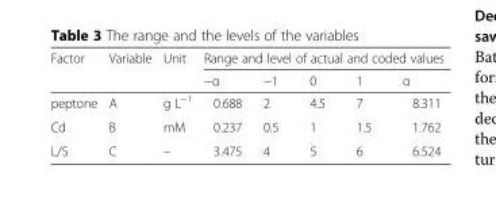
<table><thead><tr><td rowspan="2">Factor</td><td rowspan="2">Variable</td><td rowspan="2">Unit</td><td colspan="5">Range and level of actual and coded values</td></tr><tr><td>−α</td><td>−1</td><td>0</td><td>1</td><td>α</td></tr></thead><tbody><tr><td>peptone</td><td>A</td><td>g L<sup>−1</sup></td><td>0.688</td><td>2</td><td>4.5</td><td>7</td><td>8.311</td></tr><tr><td>Cd</td><td>B</td><td>mM</td><td>0.237</td><td>0.5</td><td>1</td><td>1.5</td><td>1.762</td></tr><tr><td>L/S</td><td>C</td><td>–</td><td>3.475</td><td>4</td><td>5</td><td>6</td><td>6.524</td></tr></tbody></table>